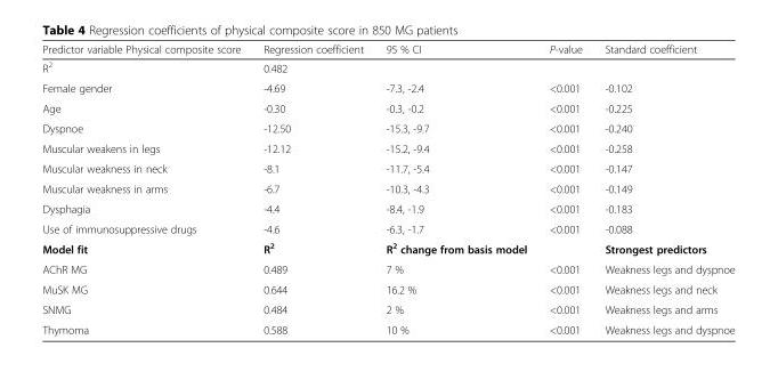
<table><thead><tr><td>Predictor variable Physical composite score</td><td>Regression coefficient</td><td>95 % CI</td><td>P-value</td><td>Standard coefficient</td></tr></thead><tbody><tr><td>R<sup>2</sup></td><td>0.482</td><td></td><td></td><td></td></tr><tr><td>Female gender</td><td>-4.69</td><td>-7.3, -2.4</td><td>&lt;0.001</td><td>-0.102</td></tr><tr><td>Age</td><td>-0.30</td><td>-0.3, -0.2</td><td>&lt;0.001</td><td>-0.225</td></tr><tr><td>Dyspnoe</td><td>-12.50</td><td>-15.3, -9.7</td><td>&lt;0.001</td><td>-0.240</td></tr><tr><td>Muscular weakens in legs</td><td>-12.12</td><td>-15.2, -9.4</td><td>&lt;0.001</td><td>-0.258</td></tr><tr><td>Muscular weakness in neck</td><td>-8.1</td><td>-11.7, -5.4</td><td>&lt;0.001</td><td>-0.147</td></tr><tr><td>Muscular weakness in arms</td><td>-6.7</td><td>-10.3, -4.3</td><td>&lt;0.001</td><td>-0.149</td></tr><tr><td>Dysphagia</td><td>-4.4</td><td>-8.4, -1.9</td><td>&lt;0.001</td><td>-0.183</td></tr><tr><td>Use of immunosuppressive drugs</td><td>-4.6</td><td>-6.3, -1.7</td><td>&lt;0.001</td><td>-0.088</td></tr><tr><td>Model fit</td><td>R<sup>2</sup></td><td>R<sup>2</sup> change from basis model</td><td></td><td>Strongest predictors</td></tr><tr><td>AChR MG</td><td>0.489</td><td>7 %</td><td>&lt;0.001</td><td>Weakness legs and dyspnoe</td></tr><tr><td>MuSK MG</td><td>0.644</td><td>16.2 %</td><td>&lt;0.001</td><td>Weakness legs and neck</td></tr><tr><td>SNMG</td><td>0.484</td><td>2 %</td><td>&lt;0.001</td><td>Weakness legs and arms</td></tr><tr><td>Thymoma</td><td>0.588</td><td>10 %</td><td>&lt;0.001</td><td>Weakness legs and dyspnoe</td></tr></tbody></table>